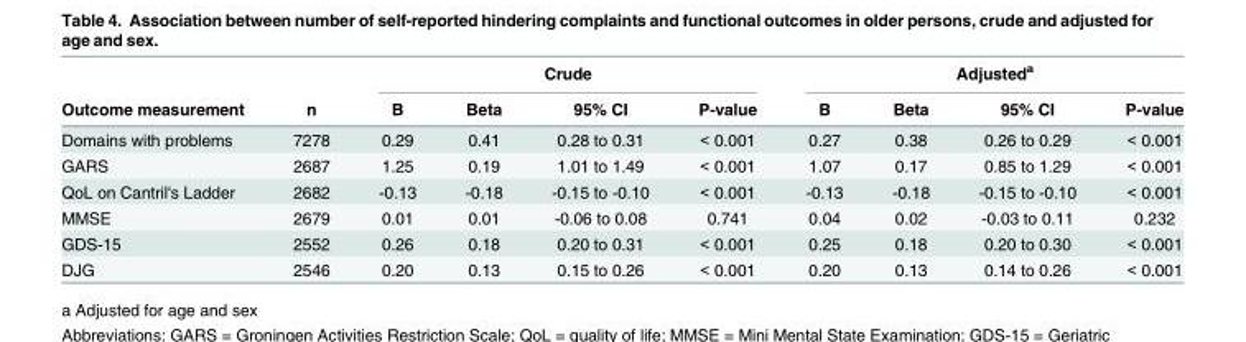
<table><thead><tr><td rowspan="2">Outcome measurement</td><td rowspan="2">n</td><td colspan="4">Crude</td><td colspan="4">Adjusted<sup>a</sup></td></tr><tr><td>B</td><td>Beta</td><td>95% CI</td><td>P-value</td><td>B</td><td>Beta</td><td>95% CI</td><td>P-value</td></tr></thead><tbody><tr><td>Domains with problems</td><td>7278</td><td>0.29</td><td>0.41</td><td>0.28 to 0.31</td><td>&lt; 0.001</td><td>0.27</td><td>0.38</td><td>0.26 to 0.29</td><td>&lt; 0.001</td></tr><tr><td>GARS</td><td>2687</td><td>1.25</td><td>0.19</td><td>1.01 to 1.49</td><td>&lt; 0.001</td><td>1.07</td><td>0.17</td><td>0.85 to 1.29</td><td>&lt; 0.001</td></tr><tr><td>QoL on Cantril&#x27;s Ladder</td><td>2682</td><td>-0.13</td><td>-0.18</td><td>-0.15 to -0.10</td><td>&lt; 0.001</td><td>-0.13</td><td>-0.18</td><td>-0.15 to -0.10</td><td>&lt; 0.001</td></tr><tr><td>MMSE</td><td>2679</td><td>0.01</td><td>0.01</td><td>-0.06 to 0.08</td><td>0.741</td><td>0.04</td><td>0.02</td><td>-0.03 to 0.11</td><td>0.232</td></tr><tr><td>GDS-15</td><td>2552</td><td>0.26</td><td>0.18</td><td>0.20 to 0.31</td><td>&lt; 0.001</td><td>0.25</td><td>0.18</td><td>0.20 to 0.30</td><td>&lt; 0.001</td></tr><tr><td>DJG</td><td>2546</td><td>0.20</td><td>0.13</td><td>0.15 to 0.26</td><td>&lt; 0.001</td><td>0.20</td><td>0.13</td><td>0.14 to 0.26</td><td>&lt; 0.001</td></tr></tbody></table>